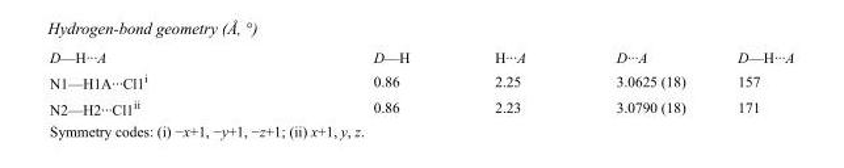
<table><tbody><tr><td>D—H···A</td><td>D—H</td><td>H···A</td><td>D···A</td><td>D—H···A</td></tr><tr><td>N1—H1A···Cl1<sup>i</sup></td><td>0.86</td><td>2.25</td><td>3.0625 (18)</td><td>157</td></tr><tr><td>N2—H2···Cl1<sup>ii</sup></td><td>0.86</td><td>2.23</td><td>3.0790 (18)</td><td>171</td></tr></tbody></table>